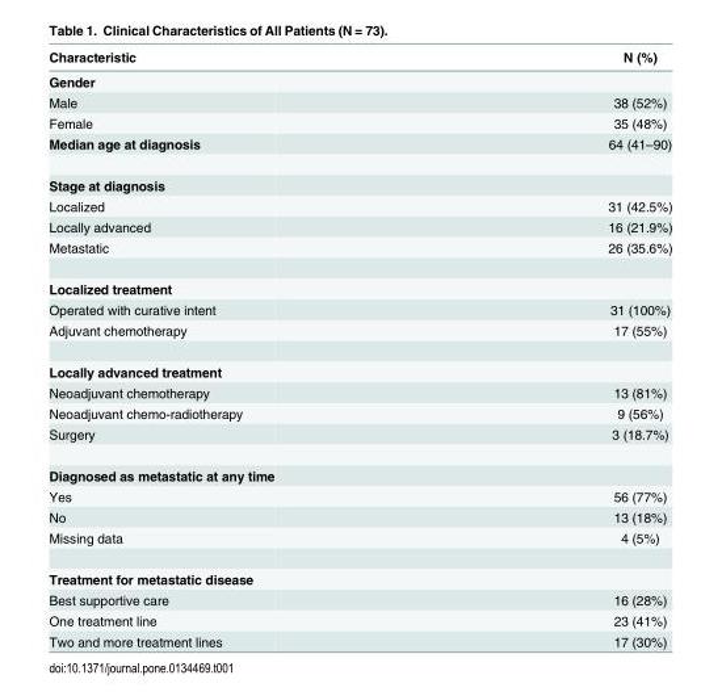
<table><thead><tr><td>Characteristic</td><td>N (%)</td></tr></thead><tbody><tr><td colspan="2">Gender</td></tr><tr><td>Male</td><td>38 (52%)</td></tr><tr><td>Female</td><td>35 (48%)</td></tr><tr><td>Median age at diagnosis</td><td>64 (41–90)</td></tr><tr><td colspan="2">Stage at diagnosis</td></tr><tr><td>Localized</td><td>31 (42.5%)</td></tr><tr><td>Locally advanced</td><td>16 (21.9%)</td></tr><tr><td>Metastatic</td><td>26 (35.6%)</td></tr><tr><td colspan="2">Localized treatment</td></tr><tr><td>Operated with curative intent</td><td>31 (100%)</td></tr><tr><td>Adjuvant chemotherapy</td><td>17 (55%)</td></tr><tr><td colspan="2">Locally advanced treatment</td></tr><tr><td>Neoadjuvant chemotherapy</td><td>13 (81%)</td></tr><tr><td>Neoadjuvant chemo-radiotherapy</td><td>9 (56%)</td></tr><tr><td>Surgery</td><td>3 (18.7%)</td></tr><tr><td colspan="2">Diagnosed as metastatic at any time</td></tr><tr><td>Yes</td><td>56 (77%)</td></tr><tr><td>No</td><td>13 (18%)</td></tr><tr><td>Missing data</td><td>4 (5%)</td></tr><tr><td colspan="2">Treatment for metastatic disease</td></tr><tr><td>Best supportive care</td><td>16 (28%)</td></tr><tr><td>One treatment line</td><td>23 (41%)</td></tr><tr><td>Two and more treatment lines</td><td>17 (30%)</td></tr></tbody></table>